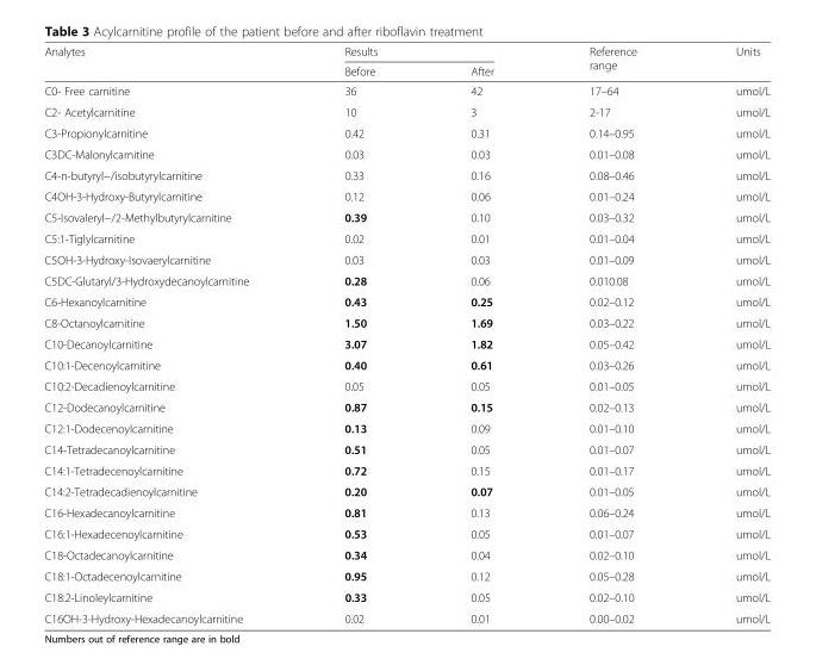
<table><thead><tr><td rowspan="2">Analytes</td><td colspan="2">Results</td><td rowspan="2">Reference range</td><td rowspan="2">Units</td></tr><tr><td>Before</td><td>After</td></tr></thead><tbody><tr><td>C0- Free carnitine</td><td>36</td><td>42</td><td>17–64</td><td>umol/L</td></tr><tr><td>C2- Acetylcarnitine</td><td>10</td><td>3</td><td>2-17</td><td>umol/L</td></tr><tr><td>C3-Propionylcarnitine</td><td>0.42</td><td>0.31</td><td>0.14–0.95</td><td>umol/L</td></tr><tr><td>C3DC-Malonylcarnitine</td><td>0.03</td><td>0.03</td><td>0.01–0.08</td><td>umol/L</td></tr><tr><td>C4-n-butyryl−/isobutyrylcarnitine</td><td>0.33</td><td>0.16</td><td>0.08–0.46</td><td>umol/L</td></tr><tr><td>C4OH-3-Hydroxy-Butyrylcarnitine</td><td>0.12</td><td>0.06</td><td>0.01–0.24</td><td>umol/L</td></tr><tr><td>C5-Isovaleryl−/2-Methylbutyrylcarnitine</td><td>0.39</td><td>0.10</td><td>0.03–0.32</td><td>umol/L</td></tr><tr><td>C5:1-Tiglylcarnitine</td><td>0.02</td><td>0.01</td><td>0.01–0.04</td><td>umol/L</td></tr><tr><td>C5OH-3-Hydroxy-Isovaerylcarnitine</td><td>0.03</td><td>0.03</td><td>0.01–0.09</td><td>umol/L</td></tr><tr><td>C5DC-Glutaryl/3-Hydroxydecanoylcarnitine</td><td>0.28</td><td>0.06</td><td>0.010.08</td><td>umol/L</td></tr><tr><td>C6-Hexanoylcarnitine</td><td>0.43</td><td>0.25</td><td>0.02–0.12</td><td>umol/L</td></tr><tr><td>C8-Octanoylcarnitine</td><td>1.50</td><td>1.69</td><td>0.03–0.22</td><td>umol/L</td></tr><tr><td>C10-Decanoylcarnitine</td><td>3.07</td><td>1.82</td><td>0.05–0.42</td><td>umol/L</td></tr><tr><td>C10:1-Decenoylcarnitine</td><td>0.40</td><td>0.61</td><td>0.03–0.26</td><td>umol/L</td></tr><tr><td>C10:2-Decadienoylcarnitine</td><td>0.05</td><td>0.05</td><td>0.01–0.05</td><td>umol/L</td></tr><tr><td>C12-Dodecanoylcarnitine</td><td>0.87</td><td>0.15</td><td>0.02–0.13</td><td>umol/L</td></tr><tr><td>C12:1-Dodecenoylcarnitine</td><td>0.13</td><td>0.09</td><td>0.01–0.10</td><td>umol/L</td></tr><tr><td>C14-Tetradecanoylcarnitine</td><td>0.51</td><td>0.05</td><td>0.01–0.07</td><td>umol/L</td></tr><tr><td>C14:1-Tetradecenoylcarnitine</td><td>0.72</td><td>0.15</td><td>0.01–0.17</td><td>umol/L</td></tr><tr><td>C14:2-Tetradecadienoylcarnitine</td><td>0.20</td><td>0.07</td><td>0.01–0.05</td><td>umol/L</td></tr><tr><td>C16-Hexadecanoylcarnitine</td><td>0.81</td><td>0.13</td><td>0.06–0.24</td><td>umol/L</td></tr><tr><td>C16:1-Hexadecenoylcarnitine</td><td>0.53</td><td>0.05</td><td>0.01–0.07</td><td>umol/L</td></tr><tr><td>C18-Octadecanoylcarnitine</td><td>0.34</td><td>0.04</td><td>0.02–0.10</td><td>umol/L</td></tr><tr><td>C18:1-Octadecenoylcarnitine</td><td>0.95</td><td>0.12</td><td>0.05–0.28</td><td>umol/L</td></tr><tr><td>C18:2-Linoleylcarnitine</td><td>0.33</td><td>0.05</td><td>0.02–0.10</td><td>umol/L</td></tr><tr><td>C16OH-3-Hydroxy-Hexadecanoylcarnitine</td><td>0.02</td><td>0.01</td><td>0.00–0.02</td><td>umol/L</td></tr></tbody></table>